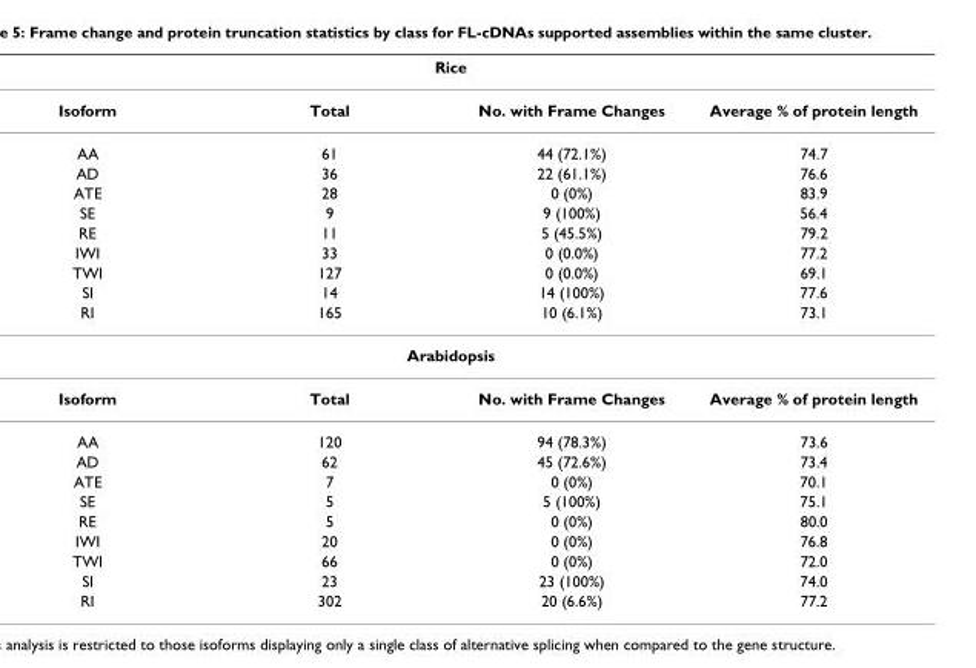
<table><thead><tr><td colspan="4">Rice</td></tr><tr><td>Isoform</td><td>Total</td><td>No. with Frame Changes</td><td>Average % of protein length</td></tr></thead><tbody><tr><td>AA</td><td>61</td><td>44 (72.1%)</td><td>74.7</td></tr><tr><td>AD</td><td>36</td><td>22 (61.1%)</td><td>76.6</td></tr><tr><td>ATE</td><td>28</td><td>0 (0%)</td><td>83.9</td></tr><tr><td>SE</td><td>9</td><td>9 (100%)</td><td>56.4</td></tr><tr><td>RE</td><td>11</td><td>5 (45.5%)</td><td>79.2</td></tr><tr><td>IWI</td><td>33</td><td>0 (0.0%)</td><td>77.2</td></tr><tr><td>TWI</td><td>127</td><td>0 (0.0%)</td><td>69.1</td></tr><tr><td>SI</td><td>14</td><td>14 (100%)</td><td>77.6</td></tr><tr><td>RI</td><td>165</td><td>10 (6.1%)</td><td>73.1</td></tr><tr><td colspan="4">Arabidopsis</td></tr><tr><td>Isoform</td><td>Total</td><td>No. with Frame Changes</td><td>Average % of protein length</td></tr><tr><td>AA</td><td>120</td><td>94 (78.3%)</td><td>73.6</td></tr><tr><td>AD</td><td>62</td><td>45 (72.6%)</td><td>73.4</td></tr><tr><td>ATE</td><td>7</td><td>0 (0%)</td><td>70.1</td></tr><tr><td>SE</td><td>5</td><td>5 (100%)</td><td>75.1</td></tr><tr><td>RE</td><td>5</td><td>0 (0%)</td><td>80.0</td></tr><tr><td>IWI</td><td>20</td><td>0 (0%)</td><td>76.8</td></tr><tr><td>TWI</td><td>66</td><td>0 (0%)</td><td>72.0</td></tr><tr><td>SI</td><td>23</td><td>23 (100%)</td><td>74.0</td></tr><tr><td>RI</td><td>302</td><td>20 (6.6%)</td><td>77.2</td></tr></tbody></table>